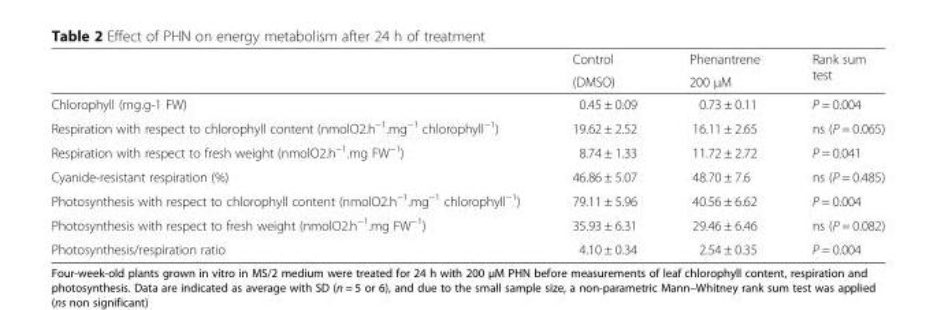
<table><thead><tr><td rowspan="2"></td><td rowspan="2">Control (DMSO)</td><td rowspan="2">Phenantrene 200 μM</td><td rowspan="2">Rank sum test</td></tr><tr></tr></thead><tbody><tr><td>Chlorophyll (mg.g-1 FW)</td><td>0.45 ± 0.09</td><td>0.73 ± 0.11</td><td>P = 0.004</td></tr><tr><td>Respiration with respect to chlorophyll content (nmolO2.h<sup>−1</sup>.mg<sup>−1</sup> chlorophyll<sup>−1</sup>)</td><td>19.62 ± 2.52</td><td>16.11 ± 2.65</td><td>ns (P = 0.065)</td></tr><tr><td>Respiration with respect to fresh weight (nmolO2.h<sup>−1</sup>.mg FW<sup>−1</sup>)</td><td>8.74 ± 1.33</td><td>11.72 ± 2.72</td><td>P = 0.041</td></tr><tr><td>Cyanide-resistant respiration (%)</td><td>46.86 ± 5.07</td><td>48.70 ± 7.6</td><td>ns (P = 0.485)</td></tr><tr><td>Photosynthesis with respect to chlorophyll content (nmolO2.h<sup>−1</sup>.mg<sup>−1</sup> chlorophyll<sup>−1</sup>)</td><td>79.11 ± 5.96</td><td>40.56 ± 6.62</td><td>P = 0.004</td></tr><tr><td>Photosynthesis with respect to fresh weight (nmolO2.h<sup>−1</sup>.mg FW<sup>−1</sup>)</td><td>35.93 ± 6.31</td><td>29.46 ± 6.46</td><td>ns (P = 0.082)</td></tr><tr><td>Photosynthesis/respiration ratio</td><td>4.10 ± 0.34</td><td>2.54 ± 0.35</td><td>P = 0.004</td></tr></tbody></table>